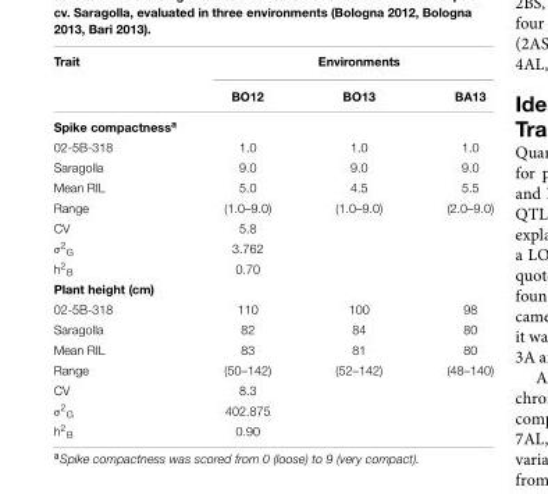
<table><thead><tr><td rowspan="2">Trait</td><td rowspan="2">BO12</td><td rowspan="2">Environments BO13</td><td rowspan="2">BA13</td></tr><tr></tr></thead><tbody><tr><td colspan="4">Spike compactness<sup>a</sup></td></tr><tr><td>02-5B-318</td><td>1.0</td><td>1.0</td><td>1.0</td></tr><tr><td>Saragolla</td><td>9.0</td><td>9.0</td><td>9.0</td></tr><tr><td>Mean RIL</td><td>5.0</td><td>4.5</td><td>5.5</td></tr><tr><td>Range</td><td>(1.0–9.0)</td><td>(1.0–9.0)</td><td>(2.0–9.0)</td></tr><tr><td>CV</td><td>5.8</td><td></td><td></td></tr><tr><td>σ<sup>2</sup><sub>G</sub></td><td>3.762</td><td></td><td></td></tr><tr><td>h<sup>2</sup><sub>B</sub></td><td>0.70</td><td></td><td></td></tr><tr><td colspan="4">Plant height (cm)</td></tr><tr><td>02-5B-318</td><td>110</td><td>100</td><td>98</td></tr><tr><td>Saragolla</td><td>82</td><td>84</td><td>80</td></tr><tr><td>Mean RIL</td><td>83</td><td>81</td><td>80</td></tr><tr><td>Range</td><td>(50–142)</td><td>(52–142)</td><td>(48–140)</td></tr><tr><td>CV</td><td>8.3</td><td></td><td></td></tr><tr><td>σ<sup>2</sup><sub>G</sub></td><td>402.875</td><td></td><td></td></tr><tr><td>h<sup>2</sup><sub>B</sub></td><td>0.90</td><td></td><td></td></tr></tbody></table>